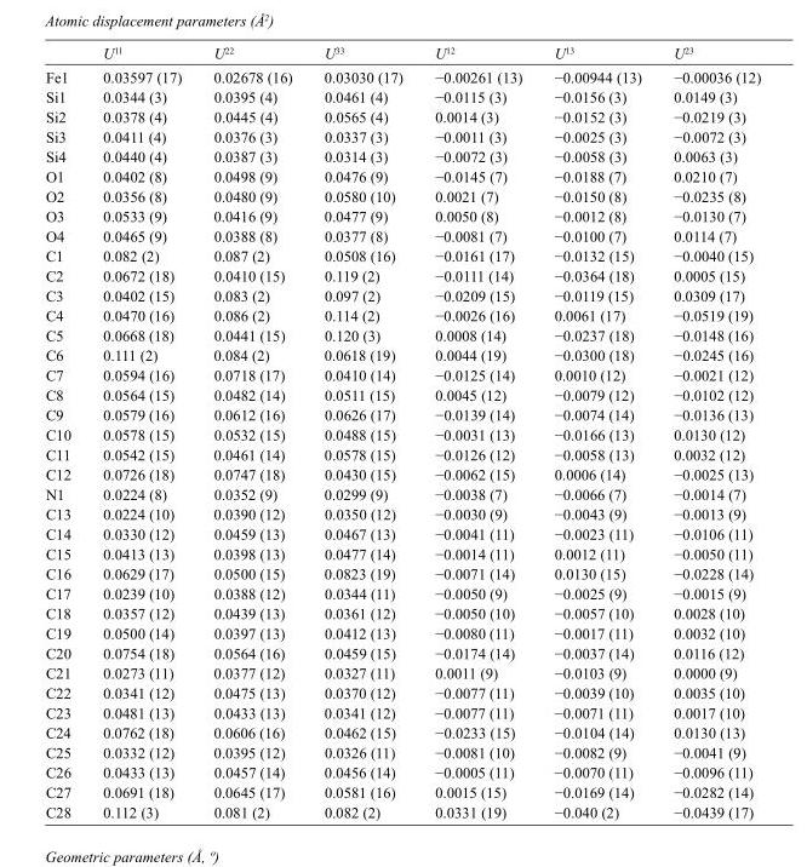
<table><thead><tr><td></td><td>U<sup>11</sup></td><td>U<sup>22</sup></td><td>U<sup>33</sup></td><td>U<sup>12</sup></td><td>U<sup>13</sup></td><td>U<sup>23</sup></td></tr></thead><tbody><tr><td>Fe1</td><td>0.03597 (17)</td><td>0.02678 (16)</td><td>0.03030 (17)</td><td>−0.00261 (13)</td><td>−0.00944 (13)</td><td>−0.00036 (12)</td></tr><tr><td>Si1</td><td>0.0344 (3)</td><td>0.0395 (4)</td><td>0.0461 (4)</td><td>−0.0115 (3)</td><td>−0.0156 (3)</td><td>0.0149 (3)</td></tr><tr><td>Si2</td><td>0.0378 (4)</td><td>0.0445 (4)</td><td>0.0565 (4)</td><td>0.0014 (3)</td><td>−0.0152 (3)</td><td>−0.0219 (3)</td></tr><tr><td>Si3</td><td>0.0411 (4)</td><td>0.0376 (3)</td><td>0.0337 (3)</td><td>−0.0011 (3)</td><td>−0.0025 (3)</td><td>−0.0072 (3)</td></tr><tr><td>Si4</td><td>0.0440 (4)</td><td>0.0387 (3)</td><td>0.0314 (3)</td><td>−0.0072 (3)</td><td>−0.0058 (3)</td><td>0.0063 (3)</td></tr><tr><td>O1</td><td>0.0402 (8)</td><td>0.0498 (9)</td><td>0.0476 (9)</td><td>−0.0145 (7)</td><td>−0.0188 (7)</td><td>0.0210 (7)</td></tr><tr><td>O2</td><td>0.0356 (8)</td><td>0.0480 (9)</td><td>0.0580 (10)</td><td>0.0021 (7)</td><td>−0.0150 (8)</td><td>−0.0235 (8)</td></tr><tr><td>O3</td><td>0.0533 (9)</td><td>0.0416 (9)</td><td>0.0477 (9)</td><td>0.0050 (8)</td><td>−0.0012 (8)</td><td>−0.0130 (7)</td></tr><tr><td>O4</td><td>0.0465 (9)</td><td>0.0388 (8)</td><td>0.0377 (8)</td><td>−0.0081 (7)</td><td>−0.0100 (7)</td><td>0.0114 (7)</td></tr><tr><td>C1</td><td>0.082 (2)</td><td>0.087 (2)</td><td>0.0508 (16)</td><td>−0.0161 (17)</td><td>−0.0132 (15)</td><td>−0.0040 (15)</td></tr><tr><td>C2</td><td>0.0672 (18)</td><td>0.0410 (15)</td><td>0.119 (2)</td><td>−0.0111 (14)</td><td>−0.0364 (18)</td><td>0.0005 (15)</td></tr><tr><td>C3</td><td>0.0402 (15)</td><td>0.083 (2)</td><td>0.097 (2)</td><td>−0.0209 (15)</td><td>−0.0119 (15)</td><td>0.0309 (17)</td></tr><tr><td>C4</td><td>0.0470 (16)</td><td>0.086 (2)</td><td>0.114 (2)</td><td>−0.0026 (16)</td><td>0.0061 (17)</td><td>−0.0519 (19)</td></tr><tr><td>C5</td><td>0.0668 (18)</td><td>0.0441 (15)</td><td>0.120 (3)</td><td>0.0008 (14)</td><td>−0.0237 (18)</td><td>−0.0148 (16)</td></tr><tr><td>C6</td><td>0.111 (2)</td><td>0.084 (2)</td><td>0.0618 (19)</td><td>0.0044 (19)</td><td>−0.0300 (18)</td><td>−0.0245 (16)</td></tr><tr><td>C7</td><td>0.0594 (16)</td><td>0.0718 (17)</td><td>0.0410 (14)</td><td>−0.0125 (14)</td><td>0.0010 (12)</td><td>−0.0021 (12)</td></tr><tr><td>C8</td><td>0.0564 (15)</td><td>0.0482 (14)</td><td>0.0511 (15)</td><td>0.0045 (12)</td><td>−0.0079 (12)</td><td>−0.0102 (12)</td></tr><tr><td>C9</td><td>0.0579 (16)</td><td>0.0612 (16)</td><td>0.0626 (17)</td><td>−0.0139 (14)</td><td>−0.0074 (14)</td><td>−0.0136 (13)</td></tr><tr><td>C10</td><td>0.0578 (15)</td><td>0.0532 (15)</td><td>0.0488 (15)</td><td>−0.0031 (13)</td><td>−0.0166 (13)</td><td>0.0130 (12)</td></tr><tr><td>C11</td><td>0.0542 (15)</td><td>0.0461 (14)</td><td>0.0578 (15)</td><td>−0.0126 (12)</td><td>−0.0058 (13)</td><td>0.0032 (12)</td></tr><tr><td>C12</td><td>0.0726 (18)</td><td>0.0747 (18)</td><td>0.0430 (15)</td><td>−0.0062 (15)</td><td>0.0006 (14)</td><td>−0.0025 (13)</td></tr><tr><td>N1</td><td>0.0224 (8)</td><td>0.0352 (9)</td><td>0.0299 (9)</td><td>−0.0038 (7)</td><td>−0.0066 (7)</td><td>−0.0014 (7)</td></tr><tr><td>C13</td><td>0.0224 (10)</td><td>0.0390 (12)</td><td>0.0350 (12)</td><td>−0.0030 (9)</td><td>−0.0043 (9)</td><td>−0.0013 (9)</td></tr><tr><td>C14</td><td>0.0330 (12)</td><td>0.0459 (13)</td><td>0.0467 (13)</td><td>−0.0041 (11)</td><td>−0.0023 (11)</td><td>−0.0106 (11)</td></tr><tr><td>C15</td><td>0.0413 (13)</td><td>0.0398 (13)</td><td>0.0477 (14)</td><td>−0.0014 (11)</td><td>0.0012 (11)</td><td>−0.0050 (11)</td></tr><tr><td>C16</td><td>0.0629 (17)</td><td>0.0500 (15)</td><td>0.0823 (19)</td><td>−0.0071 (14)</td><td>0.0130 (15)</td><td>−0.0228 (14)</td></tr><tr><td>C17</td><td>0.0239 (10)</td><td>0.0388 (12)</td><td>0.0344 (11)</td><td>−0.0050 (9)</td><td>−0.0025 (9)</td><td>−0.0015 (9)</td></tr><tr><td>C18</td><td>0.0357 (12)</td><td>0.0439 (13)</td><td>0.0361 (12)</td><td>−0.0050 (10)</td><td>−0.0057 (10)</td><td>0.0028 (10)</td></tr><tr><td>C19</td><td>0.0500 (14)</td><td>0.0397 (13)</td><td>0.0412 (13)</td><td>−0.0080 (11)</td><td>−0.0017 (11)</td><td>0.0032 (10)</td></tr><tr><td>C20</td><td>0.0754 (18)</td><td>0.0564 (16)</td><td>0.0459 (15)</td><td>−0.0174 (14)</td><td>−0.0037 (14)</td><td>0.0116 (12)</td></tr><tr><td>C21</td><td>0.0273 (11)</td><td>0.0377 (12)</td><td>0.0327 (11)</td><td>0.0011 (9)</td><td>−0.0103 (9)</td><td>0.0000 (9)</td></tr><tr><td>C22</td><td>0.0341 (12)</td><td>0.0475 (13)</td><td>0.0370 (12)</td><td>−0.0077 (11)</td><td>−0.0039 (10)</td><td>0.0035 (10)</td></tr><tr><td>C23</td><td>0.0481 (13)</td><td>0.0433 (13)</td><td>0.0341 (12)</td><td>−0.0077 (11)</td><td>−0.0071 (11)</td><td>0.0017 (10)</td></tr><tr><td>C24</td><td>0.0762 (18)</td><td>0.0606 (16)</td><td>0.0462 (15)</td><td>−0.0233 (15)</td><td>−0.0104 (14)</td><td>0.0130 (13)</td></tr><tr><td>C25</td><td>0.0332 (12)</td><td>0.0395 (12)</td><td>0.0326 (11)</td><td>−0.0081 (10)</td><td>−0.0082 (9)</td><td>−0.0041 (9)</td></tr><tr><td>C26</td><td>0.0433 (13)</td><td>0.0457 (14)</td><td>0.0456 (14)</td><td>−0.0005 (11)</td><td>−0.0070 (11)</td><td>−0.0096 (11)</td></tr><tr><td>C27</td><td>0.0691 (18)</td><td>0.0645 (17)</td><td>0.0581 (16)</td><td>0.0015 (15)</td><td>−0.0169 (14)</td><td>−0.0282 (14)</td></tr><tr><td>C28</td><td>0.112 (3)</td><td>0.081 (2)</td><td>0.082 (2)</td><td>0.0331 (19)</td><td>−0.040 (2)</td><td>−0.0439 (17)</td></tr></tbody></table>